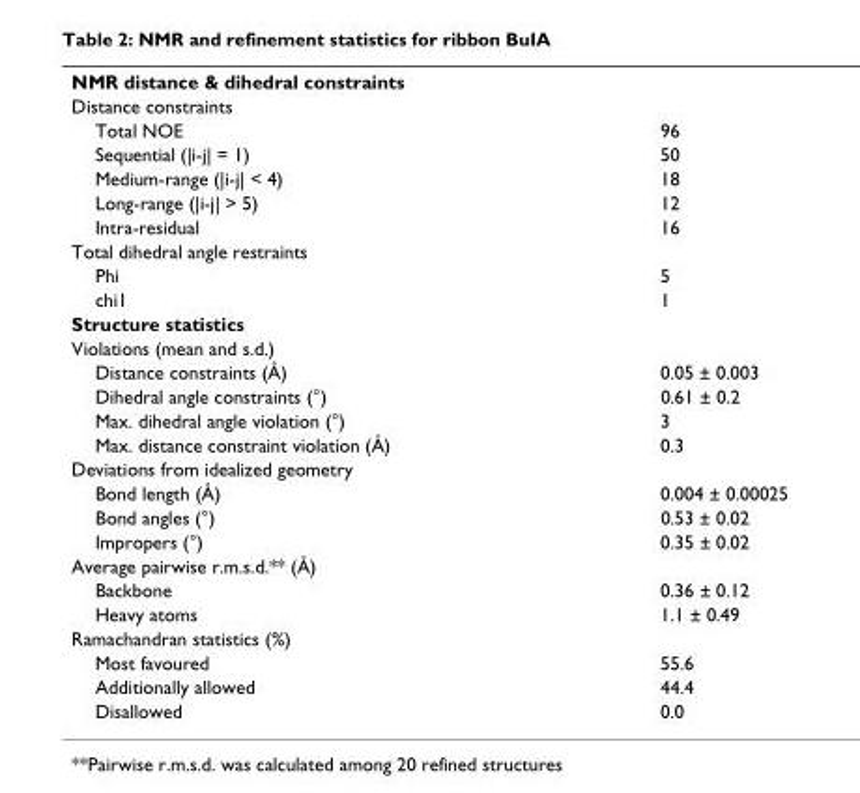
<table><tbody><tr><td colspan="2">NMR distance &amp; dihedral constraints</td></tr><tr><td colspan="2">Distance constraints</td></tr><tr><td>Total NOE</td><td>96</td></tr><tr><td>Sequential (|i-j| = 1)</td><td>50</td></tr><tr><td>Medium-range (|i-j| &lt; 4)</td><td>18</td></tr><tr><td>Long-range (|i-j| &gt; 5)</td><td>12</td></tr><tr><td>Intra-residual</td><td>16</td></tr><tr><td colspan="2">Total dihedral angle restraints</td></tr><tr><td>Phi</td><td>5</td></tr><tr><td>chi1</td><td>1</td></tr><tr><td colspan="2">Structure statistics</td></tr><tr><td colspan="2">Violations (mean and s.d.)</td></tr><tr><td>Distance constraints (Å)</td><td>0.05 ± 0.003</td></tr><tr><td>Dihedral angle constraints (°)</td><td>0.61 ± 0.2</td></tr><tr><td>Max. dihedral angle violation (°)</td><td>3</td></tr><tr><td>Max. distance constraint violation (Å)</td><td>0.3</td></tr><tr><td colspan="2">Deviations from idealized geometry</td></tr><tr><td>Bond length (Å)</td><td>0.004 ± 0.00025</td></tr><tr><td>Bond angles (°)</td><td>0.53 ± 0.02</td></tr><tr><td>Impropers (°)</td><td>0.35 ± 0.02</td></tr><tr><td colspan="2">Average pairwise r.m.s.d.** (Å)</td></tr><tr><td>Backbone</td><td>0.36 ± 0.12</td></tr><tr><td>Heavy atoms</td><td>1.1 ± 0.49</td></tr><tr><td colspan="2">Ramachandran statistics (%)</td></tr><tr><td>Most favoured</td><td>55.6</td></tr><tr><td>Additionally allowed</td><td>44.4</td></tr><tr><td>Disallowed</td><td>0.0</td></tr></tbody></table>